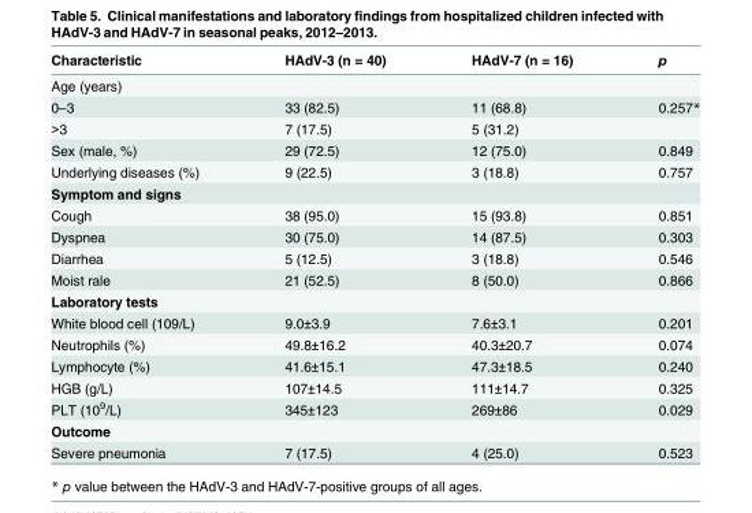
<table><thead><tr><td>Characteristic</td><td>HAdV-3 (n = 40)</td><td>HAdV-7 (n = 16)</td><td>p</td></tr></thead><tbody><tr><td colspan="4">Age (years)</td></tr><tr><td>0–3</td><td>33 (82.5)</td><td>11 (68.8)</td><td>0.257*</td></tr><tr><td>&gt;3</td><td>7 (17.5)</td><td>5 (31.2)</td><td></td></tr><tr><td>Sex (male, %)</td><td>29 (72.5)</td><td>12 (75.0)</td><td>0.849</td></tr><tr><td>Underlying diseases (%)</td><td>9 (22.5)</td><td>3 (18.8)</td><td>0.757</td></tr><tr><td colspan="4">Symptom and signs</td></tr><tr><td>Cough</td><td>38 (95.0)</td><td>15 (93.8)</td><td>0.851</td></tr><tr><td>Dyspnea</td><td>30 (75.0)</td><td>14 (87.5)</td><td>0.303</td></tr><tr><td>Diarrhea</td><td>5 (12.5)</td><td>3 (18.8)</td><td>0.546</td></tr><tr><td>Moist rale</td><td>21 (52.5)</td><td>8 (50.0)</td><td>0.866</td></tr><tr><td colspan="4">Laboratory tests</td></tr><tr><td>White blood cell (109/L)</td><td>9.0±3.9</td><td>7.6±3.1</td><td>0.201</td></tr><tr><td>Neutrophils (%)</td><td>49.8±16.2</td><td>40.3±20.7</td><td>0.074</td></tr><tr><td>Lymphocyte (%)</td><td>41.6±15.1</td><td>47.3±18.5</td><td>0.240</td></tr><tr><td>HGB (g/L)</td><td>107±14.5</td><td>111±14.7</td><td>0.325</td></tr><tr><td>PLT (10<sup>9</sup>/L)</td><td>345±123</td><td>269±86</td><td>0.029</td></tr><tr><td colspan="4">Outcome</td></tr><tr><td>Severe pneumonia</td><td>7 (17.5)</td><td>4 (25.0)</td><td>0.523</td></tr></tbody></table>